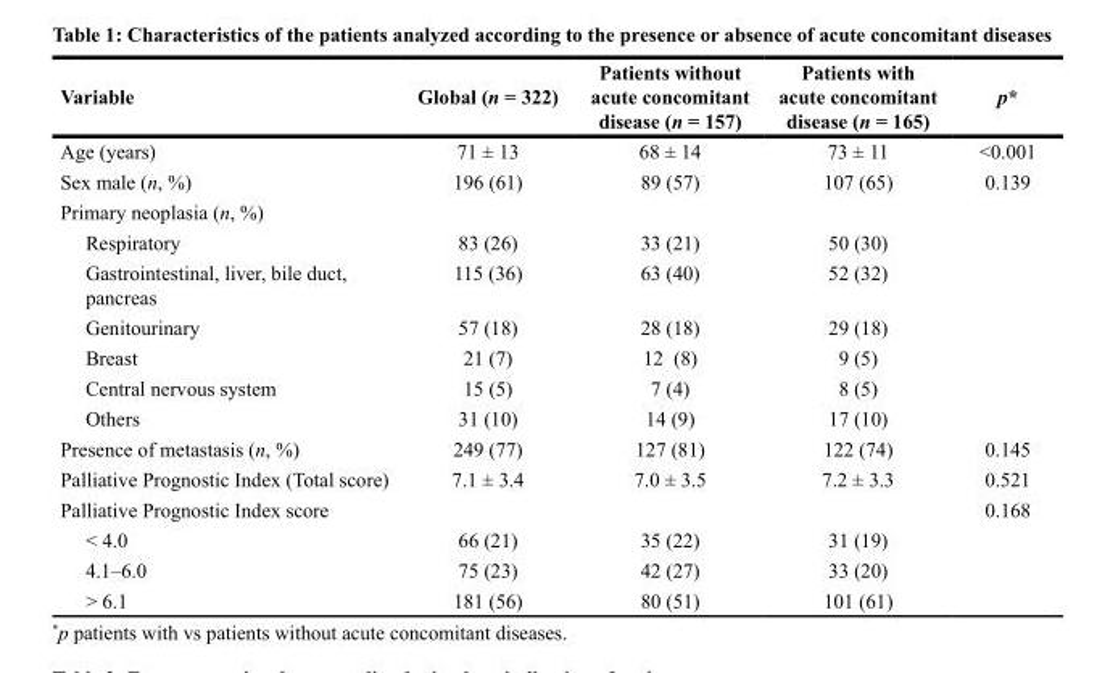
<table><thead><tr><td>Variable</td><td>Global (n = 322)</td><td>Patients without acute concomitant disease (n = 157)</td><td>Patients with acute concomitant disease (n = 165)</td><td>p*</td></tr></thead><tbody><tr><td>Age (years)</td><td>71 ± 13</td><td>68 ± 14</td><td>73 ± 11</td><td>&lt;0.001</td></tr><tr><td>Sex male (n, %)</td><td>196 (61)</td><td>89 (57)</td><td>107 (65)</td><td>0.139</td></tr><tr><td colspan="5">Primary neoplasia (n, %)</td></tr><tr><td>Respiratory</td><td>83 (26)</td><td>33 (21)</td><td>50 (30)</td><td></td></tr><tr><td>Gastrointestinal, liver, bile duct, pancreas</td><td>115 (36)</td><td>63 (40)</td><td>52 (32)</td><td></td></tr><tr><td>Genitourinary</td><td>57 (18)</td><td>28 (18)</td><td>29 (18)</td><td></td></tr><tr><td>Breast</td><td>21 (7)</td><td>12 (8)</td><td>9 (5)</td><td></td></tr><tr><td>Central nervous system</td><td>15 (5)</td><td>7 (4)</td><td>8 (5)</td><td></td></tr><tr><td>Others</td><td>31 (10)</td><td>14 (9)</td><td>17 (10)</td><td></td></tr><tr><td>Presence of metastasis (n, %)</td><td>249 (77)</td><td>127 (81)</td><td>122 (74)</td><td>0.145</td></tr><tr><td>Palliative Prognostic Index (Total score)</td><td>7.1 ± 3.4</td><td>7.0 ± 3.5</td><td>7.2 ± 3.3</td><td>0.521</td></tr><tr><td>Palliative Prognostic Index score</td><td></td><td></td><td></td><td>0.168</td></tr><tr><td>&lt; 4.0</td><td>66 (21)</td><td>35 (22)</td><td>31 (19)</td><td></td></tr><tr><td>4.1–6.0</td><td>75 (23)</td><td>42 (27)</td><td>33 (20)</td><td></td></tr><tr><td>&gt; 6.1</td><td>181 (56)</td><td>80 (51)</td><td>101 (61)</td><td></td></tr></tbody></table>